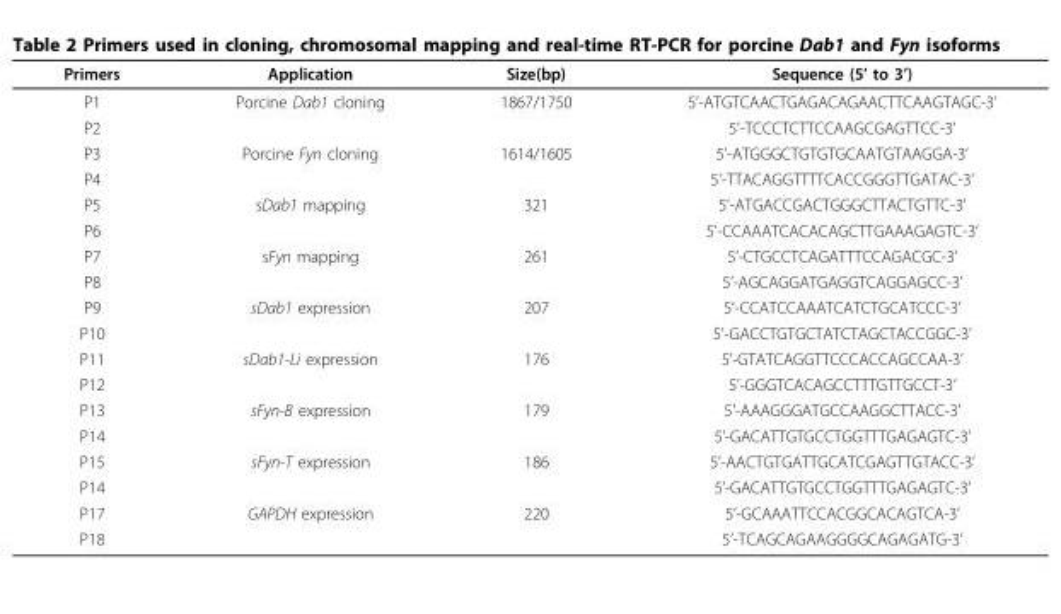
<table><thead><tr><td>Primers</td><td>Application</td><td>Size(bp)</td><td>Sequence (5’ to 3’)</td></tr></thead><tbody><tr><td>P1</td><td>Porcine Dab1 cloning</td><td>1867/1750</td><td>5’-ATGTCAACTGAGACAGAACTTCAAGTAGC-3’</td></tr><tr><td>P2</td><td></td><td></td><td>5’-TCCCTCTTCCAAGCGAGTTCC-3’</td></tr><tr><td>P3</td><td>Porcine Fyn cloning</td><td>1614/1605</td><td>5’-ATGGGCTGTGTGCAATGTAAGGA-3’</td></tr><tr><td>P4</td><td></td><td></td><td>5’-TTACAGGTTTTCACCGGGTTGATAC-3’</td></tr><tr><td>P5</td><td>sDab1 mapping</td><td>321</td><td>5’-ATGACCGACTGGGCTTACTGTTC-3’</td></tr><tr><td>P6</td><td></td><td></td><td>5’-CCAAATCACACAGCTTGAAAGAGTC-3’</td></tr><tr><td>P7</td><td>sFyn mapping</td><td>261</td><td>5’-CTGCCTCAGATTTCCAGACGC-3’</td></tr><tr><td>P8</td><td></td><td></td><td>5’-AGCAGGATGAGGTCAGGAGCC-3’</td></tr><tr><td>P9</td><td>sDab1 expression</td><td>207</td><td>5’-CCATCCAAATCATCTGCATCCC-3’</td></tr><tr><td>P10</td><td></td><td></td><td>5’-GACCTGTGCTATCTAGCTACCGGC-3’</td></tr><tr><td>P11</td><td>sDab1-Li expression</td><td>176</td><td>5’-GTATCAGGTTCCCACCAGCCAA-3’</td></tr><tr><td>P12</td><td></td><td></td><td>5’-GGGTCACAGCCTTTGTTGCCT-3’</td></tr><tr><td>P13</td><td>sFyn-B expression</td><td>179</td><td>5’-AAAGGGATGCCAAGGCTTACC-3’</td></tr><tr><td>P14</td><td></td><td></td><td>5’-GACATTGTGCCTGGTTTGAGAGTC-3’</td></tr><tr><td>P15</td><td>sFyn-T expression</td><td>186</td><td>5’-AACTGTGATTGCATCGAGTTGTACC-3’</td></tr><tr><td>P14</td><td></td><td></td><td>5’-GACATTGTGCCTGGTTTGAGAGTC-3’</td></tr><tr><td>P17</td><td>GAPDH expression</td><td>220</td><td>5’-GCAAATTCCACGGCACAGTCA-3’</td></tr><tr><td>P18</td><td></td><td></td><td>5’-TCAGCAGAAGGGGCAGAGATG-3’</td></tr></tbody></table>